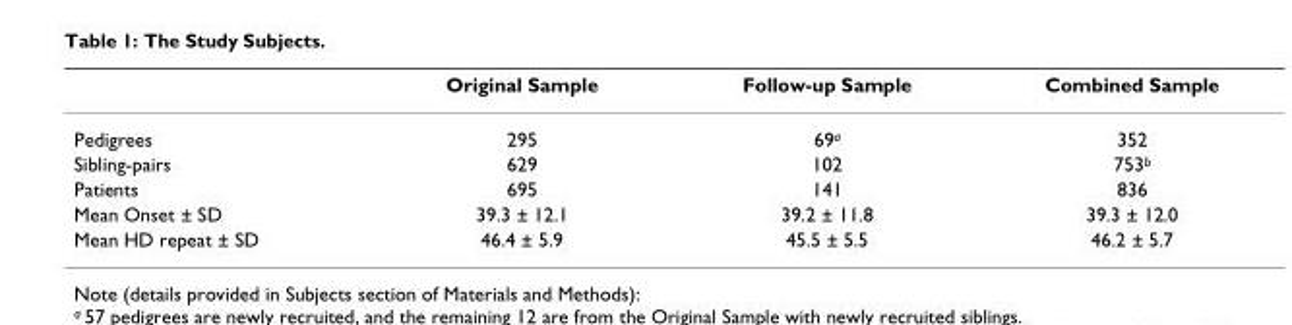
<table><thead><tr><td></td><td>Original Sample</td><td>Follow-up Sample</td><td>Combined Sample</td></tr></thead><tbody><tr><td>Pedigrees</td><td>295</td><td>69<sup>a</sup></td><td>352</td></tr><tr><td>Sibling-pairs</td><td>629</td><td>102</td><td>753<sup>b</sup></td></tr><tr><td>Patients</td><td>695</td><td>141</td><td>836</td></tr><tr><td>Mean Onset ± SD</td><td>39.3 ± 12.1</td><td>39.2 ± 11.8</td><td>39.3 ± 12.0</td></tr><tr><td>Mean HD repeat ± SD</td><td>46.4 ± 5.9</td><td>45.5 ± 5.5</td><td>46.2 ± 5.7</td></tr></tbody></table>